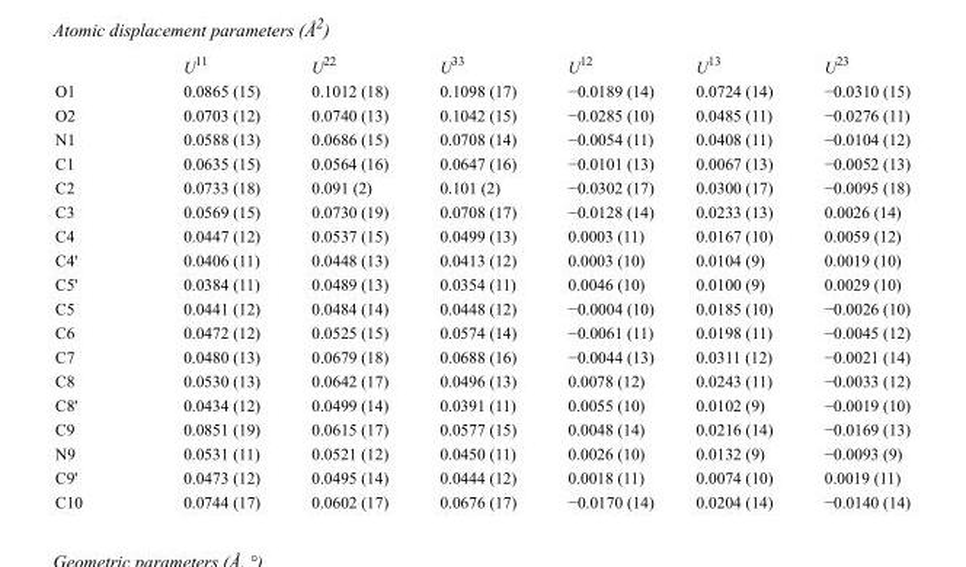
<table><thead><tr><td></td><td>U<sup>11</sup></td><td>U<sup>22</sup></td><td>U<sup>33</sup></td><td>U<sup>12</sup></td><td>U<sup>13</sup></td><td>U<sup>23</sup></td></tr></thead><tbody><tr><td>O1</td><td>0.0865 (15)</td><td>0.1012 (18)</td><td>0.1098 (17)</td><td>−0.0189 (14)</td><td>0.0724 (14)</td><td>−0.0310 (15)</td></tr><tr><td>O2</td><td>0.0703 (12)</td><td>0.0740 (13)</td><td>0.1042 (15)</td><td>−0.0285 (10)</td><td>0.0485 (11)</td><td>−0.0276 (11)</td></tr><tr><td>N1</td><td>0.0588 (13)</td><td>0.0686 (15)</td><td>0.0708 (14)</td><td>−0.0054 (11)</td><td>0.0408 (11)</td><td>−0.0104 (12)</td></tr><tr><td>C1</td><td>0.0635 (15)</td><td>0.0564 (16)</td><td>0.0647 (16)</td><td>−0.0101 (13)</td><td>0.0067 (13)</td><td>−0.0052 (13)</td></tr><tr><td>C2</td><td>0.0733 (18)</td><td>0.091 (2)</td><td>0.101 (2)</td><td>−0.0302 (17)</td><td>0.0300 (17)</td><td>−0.0095 (18)</td></tr><tr><td>C3</td><td>0.0569 (15)</td><td>0.0730 (19)</td><td>0.0708 (17)</td><td>−0.0128 (14)</td><td>0.0233 (13)</td><td>0.0026 (14)</td></tr><tr><td>C4</td><td>0.0447 (12)</td><td>0.0537 (15)</td><td>0.0499 (13)</td><td>0.0003 (11)</td><td>0.0167 (10)</td><td>0.0059 (12)</td></tr><tr><td>C4&#x27;</td><td>0.0406 (11)</td><td>0.0448 (13)</td><td>0.0413 (12)</td><td>0.0003 (10)</td><td>0.0104 (9)</td><td>0.0019 (10)</td></tr><tr><td>C5&#x27;</td><td>0.0384 (11)</td><td>0.0489 (13)</td><td>0.0354 (11)</td><td>0.0046 (10)</td><td>0.0100 (9)</td><td>0.0029 (10)</td></tr><tr><td>C5</td><td>0.0441 (12)</td><td>0.0484 (14)</td><td>0.0448 (12)</td><td>−0.0004 (10)</td><td>0.0185 (10)</td><td>−0.0026 (10)</td></tr><tr><td>C6</td><td>0.0472 (12)</td><td>0.0525 (15)</td><td>0.0574 (14)</td><td>−0.0061 (11)</td><td>0.0198 (11)</td><td>−0.0045 (12)</td></tr><tr><td>C7</td><td>0.0480 (13)</td><td>0.0679 (18)</td><td>0.0688 (16)</td><td>−0.0044 (13)</td><td>0.0311 (12)</td><td>−0.0021 (14)</td></tr><tr><td>C8</td><td>0.0530 (13)</td><td>0.0642 (17)</td><td>0.0496 (13)</td><td>0.0078 (12)</td><td>0.0243 (11)</td><td>−0.0033 (12)</td></tr><tr><td>C8&#x27;</td><td>0.0434 (12)</td><td>0.0499 (14)</td><td>0.0391 (11)</td><td>0.0055 (10)</td><td>0.0102 (9)</td><td>−0.0019 (10)</td></tr><tr><td>C9</td><td>0.0851 (19)</td><td>0.0615 (17)</td><td>0.0577 (15)</td><td>0.0048 (14)</td><td>0.0216 (14)</td><td>−0.0169 (13)</td></tr><tr><td>N9</td><td>0.0531 (11)</td><td>0.0521 (12)</td><td>0.0450 (11)</td><td>0.0026 (10)</td><td>0.0132 (9)</td><td>−0.0093 (9)</td></tr><tr><td>C9&#x27;</td><td>0.0473 (12)</td><td>0.0495 (14)</td><td>0.0444 (12)</td><td>0.0018 (11)</td><td>0.0074 (10)</td><td>0.0019 (11)</td></tr><tr><td>C10</td><td>0.0744 (17)</td><td>0.0602 (17)</td><td>0.0676 (17)</td><td>−0.0170 (14)</td><td>0.0204 (14)</td><td>−0.0140 (14)</td></tr></tbody></table>